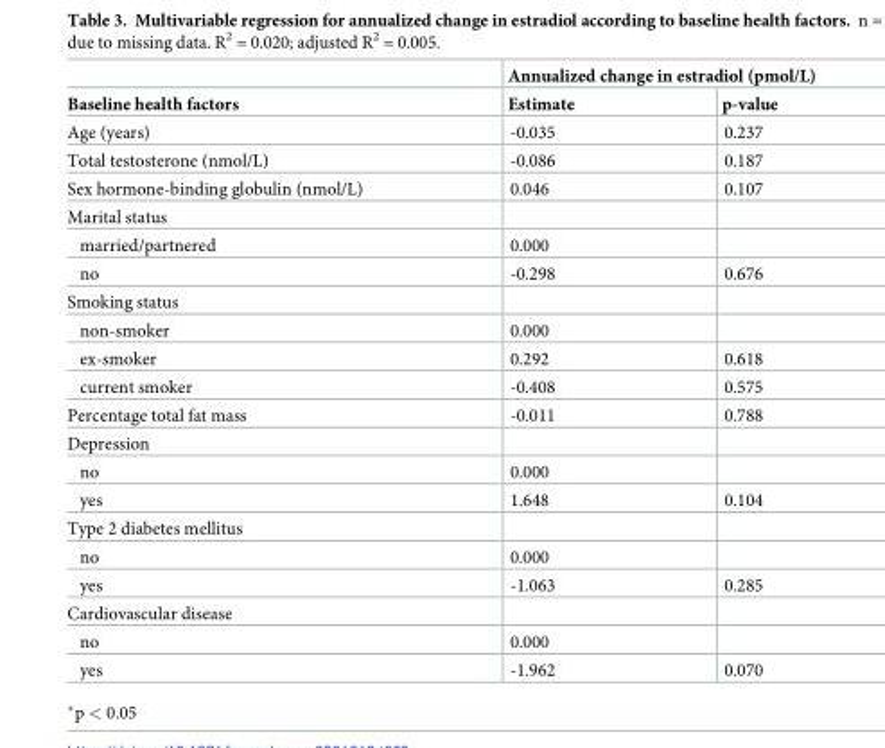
<table><thead><tr><td rowspan="2">Baseline health factors</td><td colspan="2">Annualized change in estradiol (pmol/L)</td></tr><tr><td>Estimate</td><td>p-value</td></tr></thead><tbody><tr><td>Age (years)</td><td>-0.035</td><td>0.237</td></tr><tr><td>Total testosterone (nmol/L)</td><td>-0.086</td><td>0.187</td></tr><tr><td>Sex hormone-binding globulin (nmol/L)</td><td>0.046</td><td>0.107</td></tr><tr><td colspan="3">Marital status</td></tr><tr><td>married/partnered</td><td>0.000</td><td></td></tr><tr><td>no</td><td>-0.298</td><td>0.676</td></tr><tr><td colspan="3">Smoking status</td></tr><tr><td>non-smoker</td><td>0.000</td><td></td></tr><tr><td>ex-smoker</td><td>0.292</td><td>0.618</td></tr><tr><td>current smoker</td><td>-0.408</td><td>0.575</td></tr><tr><td>Percentage total fat mass</td><td>-0.011</td><td>0.788</td></tr><tr><td colspan="3">Depression</td></tr><tr><td>no</td><td>0.000</td><td></td></tr><tr><td>yes</td><td>1.648</td><td>0.104</td></tr><tr><td colspan="3">Type 2 diabetes mellitus</td></tr><tr><td>no</td><td>0.000</td><td></td></tr><tr><td>yes</td><td>-1.063</td><td>0.285</td></tr><tr><td colspan="3">Cardiovascular disease</td></tr><tr><td>no</td><td>0.000</td><td></td></tr><tr><td>yes</td><td>-1.962</td><td>0.070</td></tr></tbody></table>